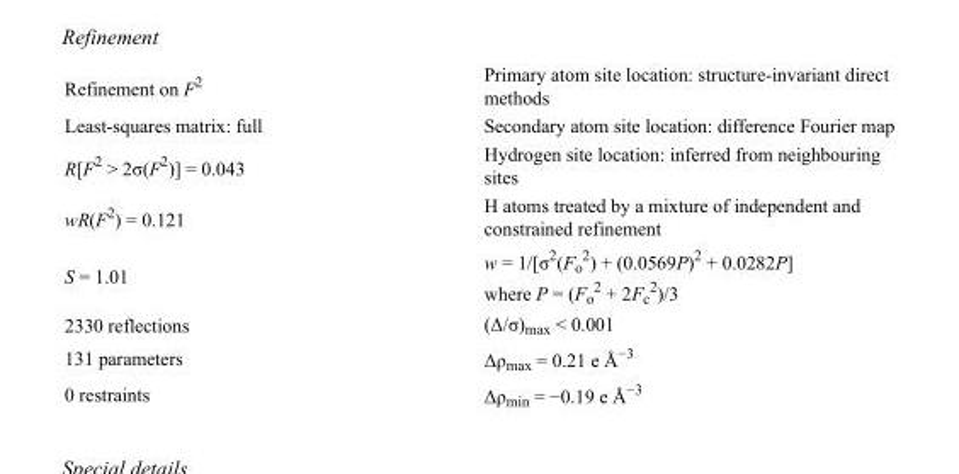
<table><tbody><tr><td>Refinement on F<sup>2</sup></td><td>Primary atom site location: structure-invariant direct methods</td></tr><tr><td>Least-squares matrix: full</td><td>Secondary atom site location: difference Fourier map</td></tr><tr><td>R[F<sup>2</sup> &gt; 2σ(F<sup>2</sup>)] = 0.043</td><td>Hydrogen site location: inferred from neighbouring sites</td></tr><tr><td>wR(F<sup>2</sup>) = 0.121</td><td>H atoms treated by a mixture of independent and constrained refinement</td></tr><tr><td>S = 1.01</td><td>w = 1/[σ<sup>2</sup>(F<sub>o</sub> <sup>2</sup>) + (0.0569P)<sup>2</sup> + 0.0282P] where P = (F<sub>o</sub> <sup>2</sup> + 2F<sub>c</sub> <sup>2</sup>)/3</td></tr><tr><td>2330 reflections</td><td>(Δ/σ)<sub>max</sub> &lt; 0.001</td></tr><tr><td>131 parameters</td><td>Δρ<sub>max</sub> = 0.21 e Å<sup>−3</sup></td></tr><tr><td>0 restraints</td><td>Δρ<sub>min</sub> = −0.19 e Å<sup>−3</sup></td></tr></tbody></table>